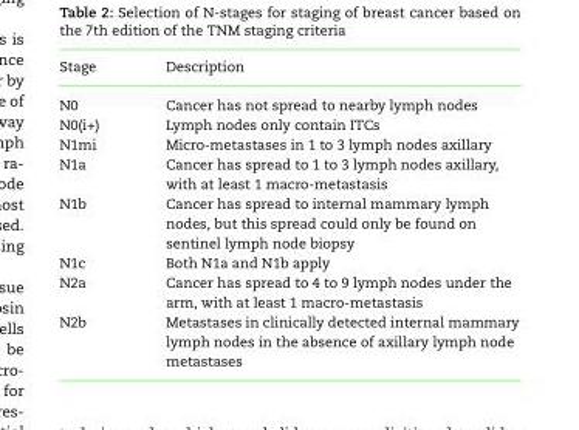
<table><thead><tr><td>Stage</td><td>Description</td></tr></thead><tbody><tr><td>N0</td><td>Cancer has not spread to nearby lymph nodes</td></tr><tr><td>N0(i+)</td><td>Lymph nodes only contain ITCs</td></tr><tr><td>N1mi</td><td>Micro-metastases in 1 to 3 lymph nodes axillary</td></tr><tr><td>N1a</td><td>Cancer has spread to 1 to 3 lymph nodes axillary, with at least 1 macro-metastasis</td></tr><tr><td>N1b</td><td>Cancer has spread to internal mammary lymph nodes, but this spread could only be found on sentinel lymph node biopsy</td></tr><tr><td>N1c</td><td>Both N1a and N1b apply</td></tr><tr><td>N2a</td><td>Cancer has spread to 4 to 9 lymph nodes under the arm, with at least 1 macro-metastasis</td></tr><tr><td>N2b</td><td>Metastases in clinically detected internal mammary lymph nodes in the absence of axillary lymph node metastases</td></tr></tbody></table>